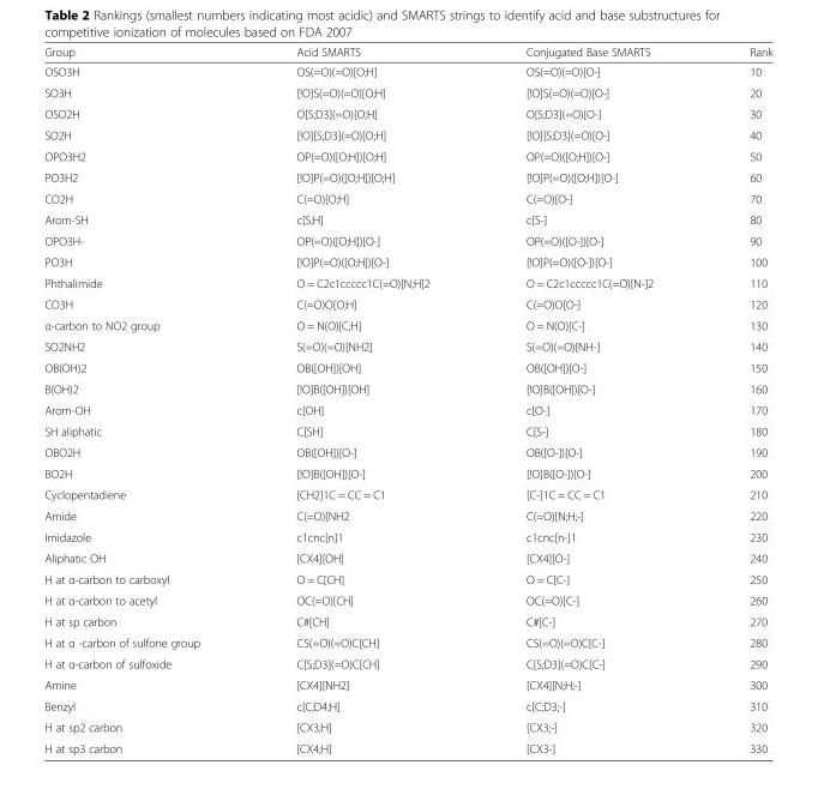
<table><thead><tr><td>Group</td><td>Acid SMARTS</td><td>Conjugated Base SMARTS</td><td>Rank</td></tr></thead><tbody><tr><td>OSO3H</td><td>OS(=O)(=O)[O;H]</td><td>OS(=O)(=O)[O-]</td><td>10</td></tr><tr><td>SO3H</td><td>[!O]S(=O)(=O)[O;H]</td><td>[!O]S(=O)(=O)[O-]</td><td>20</td></tr><tr><td>OSO2H</td><td>O[S;D3](=O)[O;H]</td><td>O[S;D3](=O)[O-]</td><td>30</td></tr><tr><td>SO2H</td><td>[!O][S;D3](=O)[O;H]</td><td>[!O][S;D3](=O)[O-]</td><td>40</td></tr><tr><td>OPO3H2</td><td>OP(=O)([O;H])[O;H]</td><td>OP(=O)([O;H])[O-]</td><td>50</td></tr><tr><td>PO3H2</td><td>[!O]P(=O)([O;H])[O;H]</td><td>[!O]P(=O)([O;H])[O-]</td><td>60</td></tr><tr><td>CO2H</td><td>C(=O)[O;H]</td><td>C(=O)[O-]</td><td>70</td></tr><tr><td>Arom-SH</td><td>c[S;H]</td><td>c[S-]</td><td>80</td></tr><tr><td>OPO3H-</td><td>OP(=O)([O;H])[O-]</td><td>OP(=O)([O-])[O-]</td><td>90</td></tr><tr><td>PO3H</td><td>[!O]P(=O)([O;H])[O-]</td><td>[!O]P(=O)([O-])[O-]</td><td>100</td></tr><tr><td>Phthalimide</td><td>O = C2c1ccccc1C(=O)[N;H]2</td><td>O = C2c1ccccc1C(=O)[N-]2</td><td>110</td></tr><tr><td>CO3H</td><td>C(=O)O[O;H]</td><td>C(=O)O[O-]</td><td>120</td></tr><tr><td>α-carbon to NO2 group</td><td>O = N(O)[C;H]</td><td>O = N(O)[C-]</td><td>130</td></tr><tr><td>SO2NH2</td><td>S(=O)(=O)[NH2]</td><td>S(=O)(=O)[NH-]</td><td>140</td></tr><tr><td>OB(OH)2</td><td>OB([OH])[OH]</td><td>OB([OH])[O-]</td><td>150</td></tr><tr><td>B(OH)2</td><td>[!O]B([OH])[OH]</td><td>[!O]B([OH])[O-]</td><td>160</td></tr><tr><td>Arom-OH</td><td>c[OH]</td><td>c[O-]</td><td>170</td></tr><tr><td>SH aliphatic</td><td>C[SH]</td><td>C[S-]</td><td>180</td></tr><tr><td>OBO2H</td><td>OB([OH])[O-]</td><td>OB([O-])[O-]</td><td>190</td></tr><tr><td>BO2H</td><td>[!O]B([OH])[O-]</td><td>[!O]B([O-])[O-]</td><td>200</td></tr><tr><td>Cyclopentadiene</td><td>[CH2]1C = CC = C1</td><td>[C-]1C = CC = C1</td><td>210</td></tr><tr><td>Amide</td><td>C(=O)[NH2</td><td>C(=O)[N;H;-]</td><td>220</td></tr><tr><td>Imidazole</td><td>c1cnc[n]1</td><td>c1cnc[n-]1</td><td>230</td></tr><tr><td>Aliphatic OH</td><td>[CX4][OH]</td><td>[CX4][O-]</td><td>240</td></tr><tr><td>H at α-carbon to carboxyl</td><td>O = C[CH]</td><td>O = C[C-]</td><td>250</td></tr><tr><td>H at α-carbon to acetyl</td><td>OC(=O)[CH]</td><td>OC(=O)[C-]</td><td>260</td></tr><tr><td>H at sp carbon</td><td>C#[CH]</td><td>C#[C-]</td><td>270</td></tr><tr><td>H at α -carbon of sulfone group</td><td>CS(=O)(=O)C[CH]</td><td>CS(=O)(=O)C[C-]</td><td>280</td></tr><tr><td>H at α-carbon of sulfoxide</td><td>C[S;D3](=O)C[CH]</td><td>C[S;D3](=O)C[C-]</td><td>290</td></tr><tr><td>Amine</td><td>[CX4][NH2]</td><td>[CX4][N;H;-]</td><td>300</td></tr><tr><td>Benzyl</td><td>c[C;D4;H]</td><td>c[C;D3;-]</td><td>310</td></tr><tr><td>H at sp2 carbon</td><td>[CX3;H]</td><td>[CX3;-]</td><td>320</td></tr><tr><td>H at sp3 carbon</td><td>[CX4;H]</td><td>[CX3-]</td><td>330</td></tr></tbody></table>